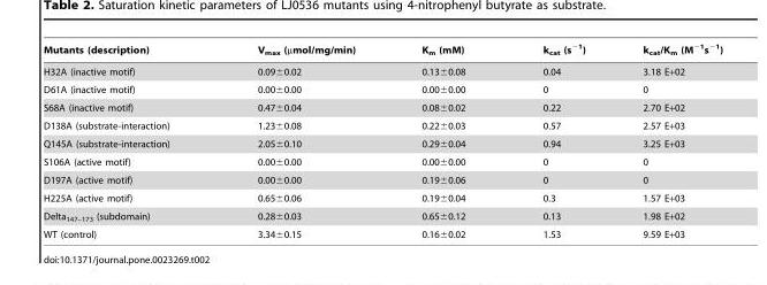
<table><thead><tr><td>Mutants (description)</td><td>V<sub>max</sub> (µmol/mg/min)</td><td>K<sub>m</sub> (mM)</td><td>k<sub>cat</sub> (s<sup>−1</sup>)</td><td>k<sub>cat</sub>/K<sub>m</sub> (M<sup>−1</sup>s<sup>−1</sup>)</td></tr></thead><tbody><tr><td>H32A (inactive motif)</td><td>0.09±0.02</td><td>0.13±0.08</td><td>0.04</td><td>3.18 E+02</td></tr><tr><td>D61A (inactive motif)</td><td>0.00±0.00</td><td>0.00±0.00</td><td>0</td><td>0</td></tr><tr><td>S68A (inactive motif)</td><td>0.47±0.04</td><td>0.08±0.02</td><td>0.22</td><td>2.70 E+02</td></tr><tr><td>D138A (substrate-interaction)</td><td>1.23±0.08</td><td>0.22±0.03</td><td>0.57</td><td>2.57 E+03</td></tr><tr><td>Q145A (substrate-interaction)</td><td>2.05±0.10</td><td>0.29±0.04</td><td>0.94</td><td>3.25 E+03</td></tr><tr><td>S106A (active motif)</td><td>0.00±0.00</td><td>0.00±0.00</td><td>0</td><td>0</td></tr><tr><td>D197A (active motif)</td><td>0.00±0.00</td><td>0.19±0.06</td><td>0</td><td>0</td></tr><tr><td>H225A (active motif)</td><td>0.65±0.06</td><td>0.19±0.04</td><td>0.3</td><td>1.57 E+03</td></tr><tr><td>Delta<sub>147–173</sub> (subdomain)</td><td>0.28±0.03</td><td>0.65±0.12</td><td>0.13</td><td>1.98 E+02</td></tr><tr><td>WT (control)</td><td>3.34±0.15</td><td>0.16±0.02</td><td>1.53</td><td>9.59 E+03</td></tr></tbody></table>